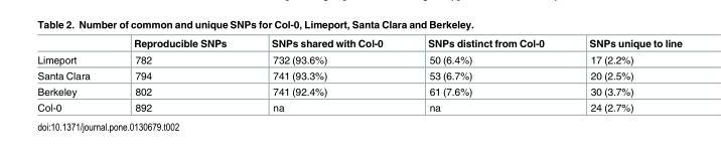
<table><thead><tr><td></td><td>Reproducible SNPs</td><td>SNPs shared with Col-0</td><td>SNPs distinct from Col-0</td><td>SNPs unique to line</td></tr></thead><tbody><tr><td>Limeport</td><td>782</td><td>732 (93.6%)</td><td>50 (6.4%)</td><td>17 (2.2%)</td></tr><tr><td>Santa Clara</td><td>794</td><td>741 (93.3%)</td><td>53 (6.7%)</td><td>20 (2.5%)</td></tr><tr><td>Berkeley</td><td>802</td><td>741 (92.4%)</td><td>61 (7.6%)</td><td>30 (3.7%)</td></tr><tr><td>Col-0</td><td>892</td><td>na</td><td>na</td><td>24 (2.7%)</td></tr></tbody></table>